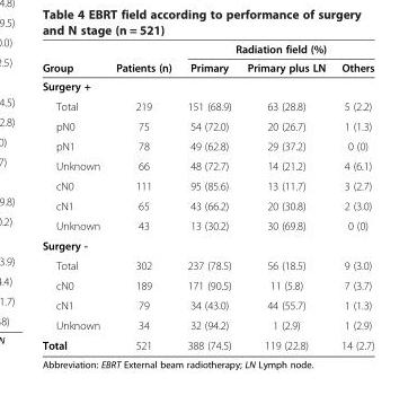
<table><thead><tr><td rowspan="2">Group</td><td rowspan="2">Patients (n)</td><td colspan="3">Radiation field (%)</td></tr><tr><td>Primary</td><td>Primary plus LN</td><td>Others</td></tr></thead><tbody><tr><td colspan="5">Surgery +</td></tr><tr><td>Total</td><td>219</td><td>151 (68.9)</td><td>63 (28.8)</td><td>5 (2.2)</td></tr><tr><td>pN0</td><td>75</td><td>54 (72.0)</td><td>20 (26.7)</td><td>1 (1.3)</td></tr><tr><td>pN1</td><td>78</td><td>49 (62.8)</td><td>29 (37.2)</td><td>0 (0)</td></tr><tr><td>Unknown</td><td>66</td><td>48 (72.7)</td><td>14 (21.2)</td><td>4 (6.1)</td></tr><tr><td>cN0</td><td>111</td><td>95 (85.6)</td><td>13 (11.7)</td><td>3 (2.7)</td></tr><tr><td>cN1</td><td>65</td><td>43 (66.2)</td><td>20 (30.8)</td><td>2 (3.0)</td></tr><tr><td>Unknown</td><td>43</td><td>13 (30.2)</td><td>30 (69.8)</td><td>0 (0)</td></tr><tr><td colspan="5">Surgery -</td></tr><tr><td>Total</td><td>302</td><td>237 (78.5)</td><td>56 (18.5)</td><td>9 (3.0)</td></tr><tr><td>cN0</td><td>189</td><td>171 (90.5)</td><td>11 (5.8)</td><td>7 (3.7)</td></tr><tr><td>cN1</td><td>79</td><td>34 (43.0)</td><td>44 (55.7)</td><td>1 (1.3)</td></tr><tr><td>Unknown</td><td>34</td><td>32 (94.2)</td><td>1 (2.9)</td><td>1 (2.9)</td></tr><tr><td>Total</td><td>521</td><td>388 (74.5)</td><td>119 (22.8)</td><td>14 (2.7)</td></tr></tbody></table>